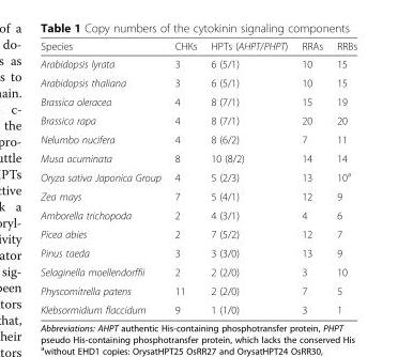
<table><thead><tr><td>Species</td><td>CHKs</td><td>HPTs (AHPT/PHPT)</td><td>RRAs</td><td>RRBs</td></tr></thead><tbody><tr><td>Arabidopsis lyrata</td><td>3</td><td>6 (5/1)</td><td>10</td><td>15</td></tr><tr><td>Arabidopsis thaliana</td><td>3</td><td>6 (5/1)</td><td>10</td><td>15</td></tr><tr><td>Brassica oleracea</td><td>4</td><td>8 (7/1)</td><td>15</td><td>19</td></tr><tr><td>Brassica rapa</td><td>4</td><td>8 (7/1)</td><td>20</td><td>20</td></tr><tr><td>Nelumbo nucifera</td><td>4</td><td>8 (6/2)</td><td>7</td><td>11</td></tr><tr><td>Musa acuminata</td><td>8</td><td>10 (8/2)</td><td>14</td><td>14</td></tr><tr><td>Oryza sativa Japonica Group</td><td>4</td><td>5 (2/3)</td><td>13</td><td>10<sup>a</sup></td></tr><tr><td>Zea mays</td><td>7</td><td>5 (4/1)</td><td>12</td><td>9</td></tr><tr><td>Amborella trichopoda</td><td>2</td><td>4 (3/1)</td><td>4</td><td>6</td></tr><tr><td>Picea abies</td><td>2</td><td>7 (5/2)</td><td>12</td><td>7</td></tr><tr><td>Pinus taeda</td><td>3</td><td>3 (3/0)</td><td>13</td><td>9</td></tr><tr><td>Selaginella moellendorffii</td><td>2</td><td>2 (2/0)</td><td>3</td><td>10</td></tr><tr><td>Physcomitrella patens</td><td>11</td><td>2 (2/0)</td><td>7</td><td>5</td></tr><tr><td>Klebsormidium flaccidum</td><td>9</td><td>1 (1/0)</td><td>3</td><td>1</td></tr></tbody></table>